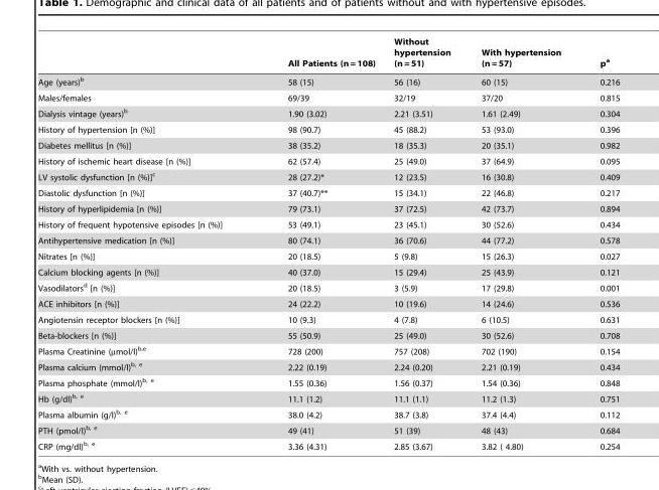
<table><thead><tr><td></td><td>All Patients (n = 108)</td><td>Without hypertension (n = 51)</td><td>With hypertension (n = 57)</td><td>p<sup>a</sup></td></tr></thead><tbody><tr><td>Age (years)<sup>b</sup></td><td>58 (15)</td><td>56 (16)</td><td>60 (15)</td><td>0.216</td></tr><tr><td>Males/females</td><td>69/39</td><td>32/19</td><td>37/20</td><td>0.815</td></tr><tr><td>Dialysis vintage (years)<sup>b</sup></td><td>1.90 (3.02)</td><td>2.21 (3.51)</td><td>1.61 (2.49)</td><td>0.304</td></tr><tr><td>History of hypertension [n (%)]</td><td>98 (90.7)</td><td>45 (88.2)</td><td>53 (93.0)</td><td>0.396</td></tr><tr><td>Diabetes mellitus [n (%)]</td><td>38 (35.2)</td><td>18 (35.3)</td><td>20 (35.1)</td><td>0.982</td></tr><tr><td>History of ischemic heart disease [n (%)]</td><td>62 (57.4)</td><td>25 (49.0)</td><td>37 (64.9)</td><td>0.095</td></tr><tr><td>LV systolic dysfunction [n (%)]<sup>c</sup></td><td>28 (27.2)*</td><td>12 (23.5)</td><td>16 (30.8)</td><td>0.409</td></tr><tr><td>Diastolic dysfunction [n (%)]</td><td>37 (40.7)**</td><td>15 (34.1)</td><td>22 (46.8)</td><td>0.217</td></tr><tr><td>History of hyperlipidemia [n (%)]</td><td>79 (73.1)</td><td>37 (72.5)</td><td>42 (73.7)</td><td>0.894</td></tr><tr><td>History of frequent hypotensive episodes [n (%)]</td><td>53 (49.1)</td><td>23 (45.1)</td><td>30 (52.6)</td><td>0.434</td></tr><tr><td>Antihypertensive medication [n (%)]</td><td>80 (74.1)</td><td>36 (70.6)</td><td>44 (77.2)</td><td>0.578</td></tr><tr><td>Nitrates [n (%)]</td><td>20 (18.5)</td><td>5 (9.8)</td><td>15 (26.3)</td><td>0.027</td></tr><tr><td>Calcium blocking agents [n (%)]</td><td>40 (37.0)</td><td>15 (29.4)</td><td>25 (43.9)</td><td>0.121</td></tr><tr><td>Vasodilators<sup>d</sup> [n (%)]</td><td>20 (18.5)</td><td>3 (5.9)</td><td>17 (29.8)</td><td>0.001</td></tr><tr><td>ACE inhibitors [n (%)]</td><td>24 (22.2)</td><td>10 (19.6)</td><td>14 (24.6)</td><td>0.536</td></tr><tr><td>Angiotensin receptor blockers [n (%)]</td><td>10 (9.3)</td><td>4 (7.8)</td><td>6 (10.5)</td><td>0.631</td></tr><tr><td>Beta-blockers [n (%)]</td><td>55 (50.9)</td><td>25 (49.0)</td><td>30 (52.6)</td><td>0.708</td></tr><tr><td>Plasma Creatinine (µmol/l)<sup>b,</sup>e</td><td>728 (200)</td><td>757 (208)</td><td>702 (190)</td><td>0.154</td></tr><tr><td>Plasma calcium (mmol/l)<sup>b,</sup> e</td><td>2.22 (0.19)</td><td>2.24 (0.20)</td><td>2.21 (0.19)</td><td>0.434</td></tr><tr><td>Plasma phosphate (mmol/l)<sup>b,</sup> e</td><td>1.55 (0.36)</td><td>1.56 (0.37)</td><td>1.54 (0.36)</td><td>0.848</td></tr><tr><td>Hb (g/dl)<sup>b,</sup> e</td><td>11.1 (1.2)</td><td>11.1 (1.1)</td><td>11.2 (1.3)</td><td>0.751</td></tr><tr><td>Plasma albumin (g/l)<sup>b,</sup> e</td><td>38.0 (4.2)</td><td>38.7 (3.8)</td><td>37.4 (4.4)</td><td>0.112</td></tr><tr><td>PTH (pmol/l)<sup>b,</sup> e</td><td>49 (41)</td><td>51 (39)</td><td>48 (43)</td><td>0.684</td></tr><tr><td>CRP (mg/dl)<sup>b,</sup> e</td><td>3.36 (4.31)</td><td>2.85 (3.67)</td><td>3.82 ( 4.80)</td><td>0.254</td></tr></tbody></table>